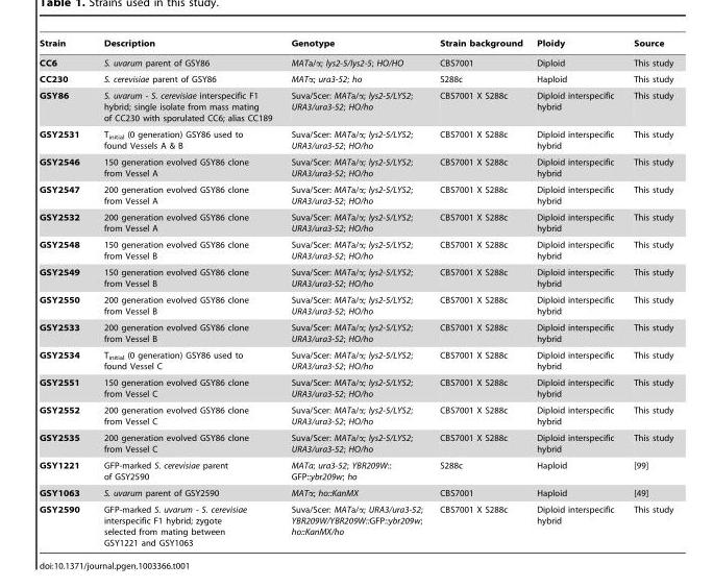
<table><thead><tr><td>Strain</td><td>Description</td><td>Genotype</td><td>Strain background</td><td>Ploidy</td><td>Source</td></tr></thead><tbody><tr><td>CC6</td><td>S. uvarum parent of GSY86</td><td>MATa/α; lys2-5/lys2-5; HO/HO</td><td>CBS7001</td><td>Diploid</td><td>This study</td></tr><tr><td>CC230</td><td>S. cerevisiae parent of GSY86</td><td>MATα; ura3-52; ho</td><td>S288c</td><td>Haploid</td><td>This study</td></tr><tr><td>GSY86</td><td>S. uvarum - S. cerevisiae interspecific F1 hybrid; single isolate from mass mating of CC230 with sporulated CC6; alias CC189</td><td>Suva/Scer: MATa/α; lys2-5/LYS2; URA3/ura3-52; HO/ho</td><td>CBS7001 X S288c</td><td>Diploid interspecific hybrid</td><td>This study</td></tr><tr><td>GSY2531</td><td>T<sub>initial</sub> (0 generation) GSY86 used to found Vessels A &amp; B</td><td>Suva/Scer: MATa/α; lys2-5/LYS2; URA3/ura3-52; HO/ho</td><td>CBS7001 X S288c</td><td>Diploid interspecific hybrid</td><td>This study</td></tr><tr><td>GSY2546</td><td>150 generation evolved GSY86 clone from Vessel A</td><td>Suva/Scer: MATa/α; lys2-5/LYS2; URA3/ura3-52; HO/ho</td><td>CBS7001 X S288c</td><td>Diploid interspecific hybrid</td><td>This study</td></tr><tr><td>GSY2547</td><td>200 generation evolved GSY86 clone from Vessel A</td><td>Suva/Scer: MATa/α; lys2-5/LYS2; URA3/ura3-52; HO/ho</td><td>CBS7001 X S288c</td><td>Diploid interspecific hybrid</td><td>This study</td></tr><tr><td>GSY2532</td><td>200 generation evolved GSY86 clone from Vessel A</td><td>Suva/Scer: MATa/α; lys2-5/LYS2; URA3/ura3-52; HO/ho</td><td>CBS7001 X S288c</td><td>Diploid interspecific hybrid</td><td>This study</td></tr><tr><td>GSY2548</td><td>150 generation evolved GSY86 clone from Vessel B</td><td>Suva/Scer: MATa/α; lys2-5/LYS2; URA3/ura3-52; HO/ho</td><td>CBS7001 X S288c</td><td>Diploid interspecific hybrid</td><td>This study</td></tr><tr><td>GSY2549</td><td>150 generation evolved GSY86 clone from Vessel B</td><td>Suva/Scer: MATa/α; lys2-5/LYS2; URA3/ura3-52; HO/ho</td><td>CBS7001 X S288c</td><td>Diploid interspecific hybrid</td><td>This study</td></tr><tr><td>GSY2550</td><td>200 generation evolved GSY86 clone from Vessel B</td><td>Suva/Scer: MATa/α; lys2-5/LYS2; URA3/ura3-52; HO/ho</td><td>CBS7001 X S288c</td><td>Diploid interspecific hybrid</td><td>This study</td></tr><tr><td>GSY2533</td><td>200 generation evolved GSY86 clone from Vessel B</td><td>Suva/Scer: MATa/α; lys2-5/LYS2; URA3/ura3-52; HO/ho</td><td>CBS7001 X S288c</td><td>Diploid interspecific hybrid</td><td>This study</td></tr><tr><td>GSY2534</td><td>T<sub>initial</sub> (0 generation) GSY86 used to found Vessel C</td><td>Suva/Scer: MATa/α; lys2-5/LYS2; URA3/ura3-52; HO/ho</td><td>CBS7001 X S288c</td><td>Diploid interspecific hybrid</td><td>This study</td></tr><tr><td>GSY2551</td><td>150 generation evolved GSY86 clone from Vessel C</td><td>Suva/Scer: MATa/α; lys2-5/LYS2; URA3/ura3-52; HO/ho</td><td>CBS7001 X S288c</td><td>Diploid interspecific hybrid</td><td>This study</td></tr><tr><td>GSY2552</td><td>200 generation evolved GSY86 clone from Vessel C</td><td>Suva/Scer: MATa/α; lys2-5/LYS2; URA3/ura3-52; HO/ho</td><td>CBS7001 X S288c</td><td>Diploid interspecific hybrid</td><td>This study</td></tr><tr><td>GSY2535</td><td>200 generation evolved GSY86 clone from Vessel C</td><td>Suva/Scer: MATa/α; lys2-5/LYS2; URA3/ura3-52; HO/ho</td><td>CBS7001 X S288c</td><td>Diploid interspecific hybrid</td><td>This study</td></tr><tr><td>GSY1221</td><td>GFP-marked S. cerevisiae parent of GSY2590</td><td>MATa; ura3-52; YBR209W:: GFP::ybr209w; ho</td><td>S288c</td><td>Haploid</td><td>[99]</td></tr><tr><td>GSY1063</td><td>S. uvarum parent of GSY2590</td><td>MATα; ho::KanMX</td><td>CBS7001</td><td>Haploid</td><td>[49]</td></tr><tr><td>GSY2590</td><td>GFP-marked S. uvarum - S. cerevisiae interspecific F1 hybrid; zygote selected from mating between GSY1221 and GSY1063</td><td>Suva/Scer: MATa/α; URA3/ura3-52; YBR209W/YBR209W::GFP::ybr209w; ho::KanMX/ho</td><td>CBS7001 X S288c</td><td>Diploid interspecific hybrid</td><td>This study</td></tr></tbody></table>